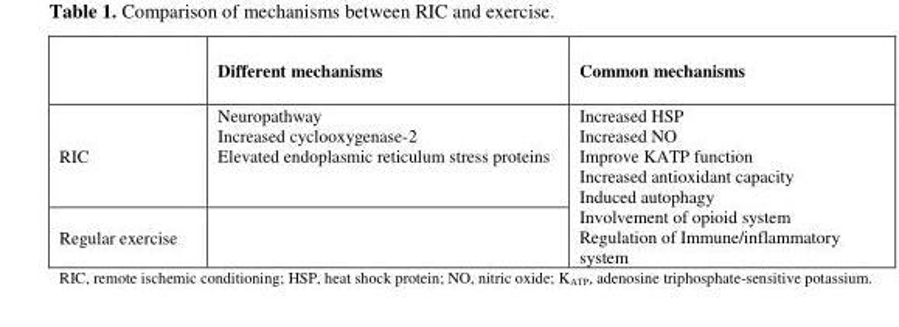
<table><thead><tr><td></td><td>Different mechanisms</td><td>Common mechanisms</td></tr></thead><tbody><tr><td>RIC</td><td>Neuropathway Increased cyclooxygenase-2 Elevated endoplasmic reticulum stress proteins</td><td rowspan="2">Increased HSP Increased NO Improve KATP function Increased antioxidant capacity Induced autophagy Involvement of opioid system Regulation of Immune/inflammatory system</td></tr><tr><td>Regular exercise</td><td></td></tr></tbody></table>